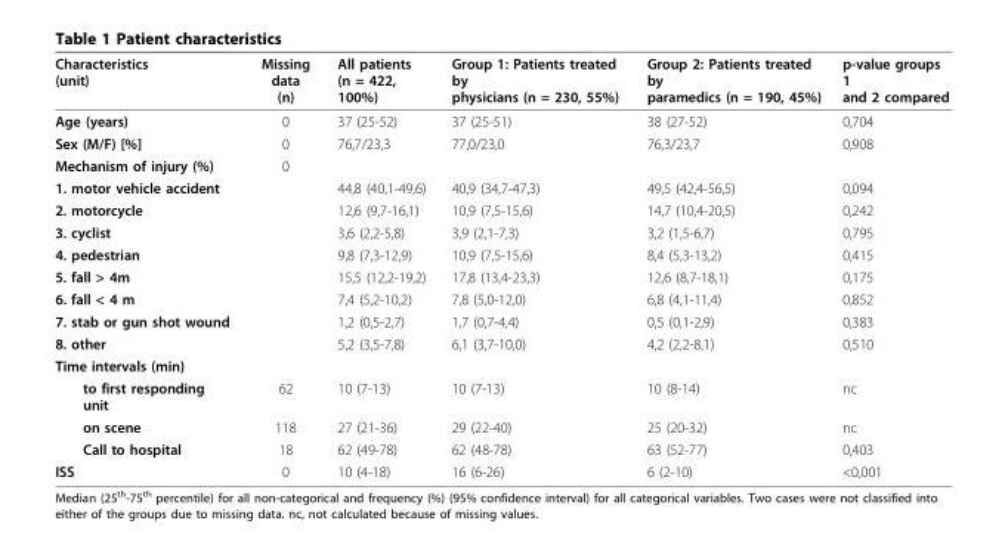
<table><thead><tr><td>Characteristics (unit)</td><td>Missing data (n)</td><td>All patients (n = 422, 100%)</td><td>Group 1: Patients treated by physicians (n = 230, 55%)</td><td>Group 2: Patients treated by paramedics (n = 190, 45%)</td><td>p-value groups 1 and 2 compared</td></tr></thead><tbody><tr><td>Age (years)</td><td>0</td><td>37 (25-52)</td><td>37 (25-51)</td><td>38 (27-52)</td><td>0,704</td></tr><tr><td>Sex (M/F) [%]</td><td>0</td><td>76,7/23,3</td><td>77,0/23,0</td><td>76,3/23,7</td><td>0,908</td></tr><tr><td>Mechanism of injury (%)</td><td>0</td><td></td><td></td><td></td><td></td></tr><tr><td>1. motor vehicle accident</td><td></td><td>44,8 (40,1-49,6)</td><td>40,9 (34,7-47,3)</td><td>49,5 (42,4-56,5)</td><td>0,094</td></tr><tr><td>2. motorcycle</td><td></td><td>12,6 (9,7-16,1)</td><td>10,9 (7,5-15,6)</td><td>14,7 (10,4-20,5)</td><td>0,242</td></tr><tr><td>3. cyclist</td><td></td><td>3,6 (2,2-5,8)</td><td>3,9 (2,1-7,3)</td><td>3,2 (1,5-6,7)</td><td>0,795</td></tr><tr><td>4. pedestrian</td><td></td><td>9,8 (7,3-12,9)</td><td>10,9 (7,5-15,6)</td><td>8,4 (5,3-13,2)</td><td>0,415</td></tr><tr><td>5. fall &gt; 4m</td><td></td><td>15,5 (12,2-19,2)</td><td>17,8 (13,4-23,3)</td><td>12,6 (8,7-18,1)</td><td>0,175</td></tr><tr><td>6. fall &lt; 4 m</td><td></td><td>7,4 (5,2-10,2)</td><td>7,8 (5,0-12,0)</td><td>6,8 (4,1-11,4)</td><td>0,852</td></tr><tr><td>7. stab or gun shot wound</td><td></td><td>1,2 (0,5-2,7)</td><td>1,7 (0,7-4,4)</td><td>0,5 (0,1-2,9)</td><td>0,383</td></tr><tr><td>8. other</td><td></td><td>5,2 (3,5-7,8)</td><td>6,1 (3,7-10,0)</td><td>4,2 (2,2-8,1)</td><td>0,510</td></tr><tr><td colspan="6">Time intervals (min)</td></tr><tr><td>to first responding unit</td><td>62</td><td>10 (7-13)</td><td>10 (7-13)</td><td>10 (8-14)</td><td>nc</td></tr><tr><td>on scene</td><td>118</td><td>27 (21-36)</td><td>29 (22-40)</td><td>25 (20-32)</td><td>nc</td></tr><tr><td>Call to hospital</td><td>18</td><td>62 (49-78)</td><td>62 (48-78)</td><td>63 (52-77)</td><td>0,403</td></tr><tr><td>ISS</td><td>0</td><td>10 (4-18)</td><td>16 (6-26)</td><td>6 (2-10)</td><td>&lt;0,001</td></tr></tbody></table>